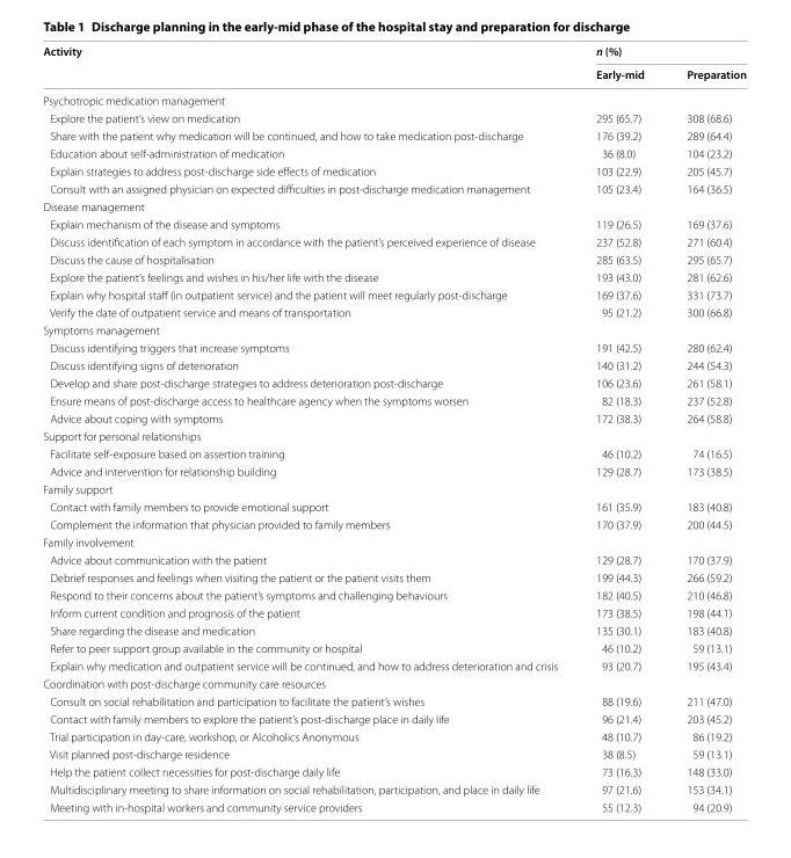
<table><thead><tr><td rowspan="2">Activity</td><td colspan="2">n (%)</td></tr><tr><td>Early-mid</td><td>Preparation</td></tr></thead><tbody><tr><td colspan="3">Psychotropic medication management</td></tr><tr><td>Explore the patient’s view on medication</td><td>295 (65.7)</td><td>308 (68.6)</td></tr><tr><td>Share with the patient why medication will be continued, and how to take medication post-discharge</td><td>176 (39.2)</td><td>289 (64.4)</td></tr><tr><td>Education about self-administration of medication</td><td>36 (8.0)</td><td>104 (23.2)</td></tr><tr><td>Explain strategies to address post-discharge side effects of medication</td><td>103 (22.9)</td><td>205 (45.7)</td></tr><tr><td>Consult with an assigned physician on expected difficulties in post-discharge medication management</td><td>105 (23.4)</td><td>164 (36.5)</td></tr><tr><td colspan="3">Disease management</td></tr><tr><td>Explain mechanism of the disease and symptoms</td><td>119 (26.5)</td><td>169 (37.6)</td></tr><tr><td>Discuss identification of each symptom in accordance with the patient’s perceived experience of disease</td><td>237 (52.8)</td><td>271 (60.4)</td></tr><tr><td>Discuss the cause of hospitalisation</td><td>285 (63.5)</td><td>295 (65.7)</td></tr><tr><td>Explore the patient’s feelings and wishes in his/her life with the disease</td><td>193 (43.0)</td><td>281 (62.6)</td></tr><tr><td>Explain why hospital staff (in outpatient service) and the patient will meet regularly post-discharge</td><td>169 (37.6)</td><td>331 (73.7)</td></tr><tr><td>Verify the date of outpatient service and means of transportation</td><td>95 (21.2)</td><td>300 (66.8)</td></tr><tr><td colspan="3">Symptoms management</td></tr><tr><td>Discuss identifying triggers that increase symptoms</td><td>191 (42.5)</td><td>280 (62.4)</td></tr><tr><td>Discuss identifying signs of deterioration</td><td>140 (31.2)</td><td>244 (54.3)</td></tr><tr><td>Develop and share post-discharge strategies to address deterioration post-discharge</td><td>106 (23.6)</td><td>261 (58.1)</td></tr><tr><td>Ensure means of post-discharge access to healthcare agency when the symptoms worsen</td><td>82 (18.3)</td><td>237 (52.8)</td></tr><tr><td>Advice about coping with symptoms</td><td>172 (38.3)</td><td>264 (58.8)</td></tr><tr><td colspan="3">Support for personal relationships</td></tr><tr><td>Facilitate self-exposure based on assertion training</td><td>46 (10.2)</td><td>74 (16.5)</td></tr><tr><td>Advice and intervention for relationship building</td><td>129 (28.7)</td><td>173 (38.5)</td></tr><tr><td colspan="3">Family support</td></tr><tr><td>Contact with family members to provide emotional support</td><td>161 (35.9)</td><td>183 (40.8)</td></tr><tr><td>Complement the information that physician provided to family members</td><td>170 (37.9)</td><td>200 (44.5)</td></tr><tr><td colspan="3">Family involvement</td></tr><tr><td>Advice about communication with the patient</td><td>129 (28.7)</td><td>170 (37.9)</td></tr><tr><td>Debrief responses and feelings when visiting the patient or the patient visits them</td><td>199 (44.3)</td><td>266 (59.2)</td></tr><tr><td>Respond to their concerns about the patient’s symptoms and challenging behaviours</td><td>182 (40.5)</td><td>210 (46.8)</td></tr><tr><td>Inform current condition and prognosis of the patient</td><td>173 (38.5)</td><td>198 (44.1)</td></tr><tr><td>Share regarding the disease and medication</td><td>135 (30.1)</td><td>183 (40.8)</td></tr><tr><td>Refer to peer support group available in the community or hospital</td><td>46 (10.2)</td><td>59 (13.1)</td></tr><tr><td>Explain why medication and outpatient service will be continued, and how to address deterioration and crisis</td><td>93 (20.7)</td><td>195 (43.4)</td></tr><tr><td colspan="3">Coordination with post-discharge community care resources</td></tr><tr><td>Consult on social rehabilitation and participation to facilitate the patient’s wishes</td><td>88 (19.6)</td><td>211 (47.0)</td></tr><tr><td>Contact with family members to explore the patient’s post-discharge place in daily life</td><td>96 (21.4)</td><td>203 (45.2)</td></tr><tr><td>Trial participation in day-care, workshop, or Alcoholics Anonymous</td><td>48 (10.7)</td><td>86 (19.2)</td></tr><tr><td>Visit planned post-discharge residence</td><td>38 (8.5)</td><td>59 (13.1)</td></tr><tr><td>Help the patient collect necessities for post-discharge daily life</td><td>73 (16.3)</td><td>148 (33.0)</td></tr><tr><td>Multidisciplinary meeting to share information on social rehabilitation, participation, and place in daily life</td><td>97 (21.6)</td><td>153 (34.1)</td></tr><tr><td>Meeting with in-hospital workers and community service providers</td><td>55 (12.3)</td><td>94 (20.9)</td></tr></tbody></table>